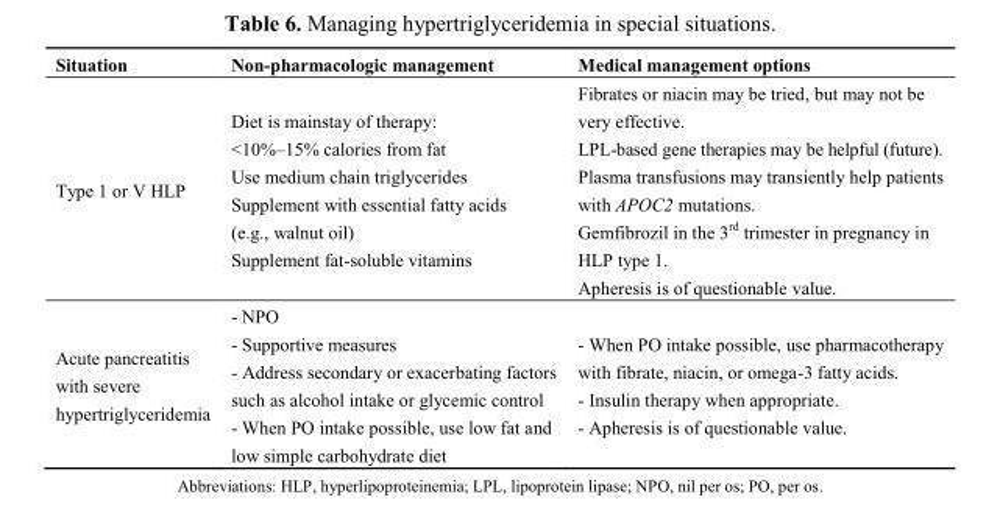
<table><thead><tr><td>Situation</td><td>Non-pharmacologic management</td><td>Medical management options</td></tr></thead><tbody><tr><td>Type 1 or V HLP</td><td>Diet is mainstay of therapy: &lt;10%–15% calories from fat Use medium chain triglycerides Supplement with essential fatty acids (e.g., walnut oil) Supplement fat-soluble vitamins</td><td>Fibrates or niacin may be tried, but may not be very effective. LPL-based gene therapies may be helpful (future). Plasma transfusions may transiently help patients with APOC2 mutations. Gemfibrozil in the 3<sup>rd</sup> trimester in pregnancy in HLP type 1. Apheresis is of questionable value.</td></tr><tr><td>Acute pancreatitis with severe hypertriglyceridemia</td><td>- NPO - Supportive measures - Address secondary or exacerbating factors such as alcohol intake or glycemic control - When PO intake possible, use low fat and low simple carbohydrate diet</td><td>- When PO intake possible, use pharmacotherapy with fibrate, niacin, or omega-3 fatty acids. - Insulin therapy when appropriate. - Apheresis is of questionable value.</td></tr></tbody></table>